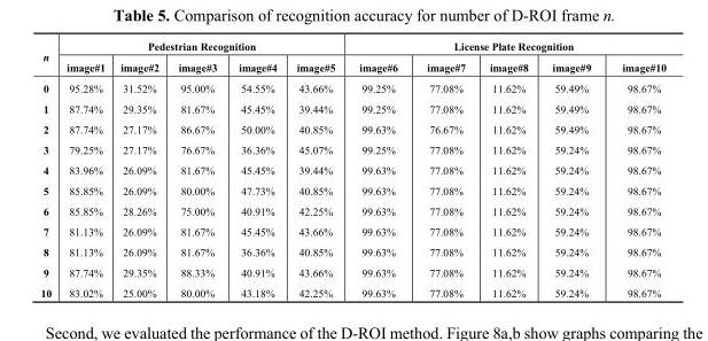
<table><thead><tr><td rowspan="2">n</td><td colspan="5">Pedestrian Recognition</td><td colspan="5">License Plate Recognition</td></tr><tr><td>image#1</td><td>image#2</td><td>image#3</td><td>image#4</td><td>image#5</td><td>image#6</td><td>image#7</td><td>image#8</td><td>image#9</td><td>image#10</td></tr></thead><tbody><tr><td>0</td><td>95.28%</td><td>31.52%</td><td>95.00%</td><td>54.55%</td><td>43.66%</td><td>99.25%</td><td>77.08%</td><td>11.62%</td><td>59.49%</td><td>98.67%</td></tr><tr><td>1</td><td>87.74%</td><td>29.35%</td><td>81.67%</td><td>45.45%</td><td>39.44%</td><td>99.25%</td><td>77.08%</td><td>11.62%</td><td>59.49%</td><td>98.67%</td></tr><tr><td>2</td><td>87.74%</td><td>27.17%</td><td>86.67%</td><td>50.00%</td><td>40.85%</td><td>99.63%</td><td>76.67%</td><td>11.62%</td><td>59.49%</td><td>98.67%</td></tr><tr><td>3</td><td>79.25%</td><td>27.17%</td><td>76.67%</td><td>36.36%</td><td>45.07%</td><td>99.25%</td><td>77.08%</td><td>11.62%</td><td>59.24%</td><td>98.67%</td></tr><tr><td>4</td><td>83.96%</td><td>26.09%</td><td>81.67%</td><td>45.45%</td><td>39.44%</td><td>99.63%</td><td>77.08%</td><td>11.62%</td><td>59.24%</td><td>98.67%</td></tr><tr><td>5</td><td>85.85%</td><td>26.09%</td><td>80.00%</td><td>47.73%</td><td>40.85%</td><td>99.63%</td><td>77.08%</td><td>11.62%</td><td>59.24%</td><td>98.67%</td></tr><tr><td>6</td><td>85.85%</td><td>28.26%</td><td>75.00%</td><td>40.91%</td><td>42.25%</td><td>99.63%</td><td>77.08%</td><td>11.62%</td><td>59.24%</td><td>98.67%</td></tr><tr><td>7</td><td>81.13%</td><td>26.09%</td><td>81.67%</td><td>45.45%</td><td>43.66%</td><td>99.63%</td><td>77.08%</td><td>11.62%</td><td>59.24%</td><td>98.67%</td></tr><tr><td>8</td><td>81.13%</td><td>26.09%</td><td>81.67%</td><td>36.36%</td><td>40.85%</td><td>99.63%</td><td>77.08%</td><td>11.62%</td><td>59.24%</td><td>98.67%</td></tr><tr><td>9</td><td>87.74%</td><td>29.35%</td><td>88.33%</td><td>40.91%</td><td>43.66%</td><td>99.63%</td><td>77.08%</td><td>11.62%</td><td>59.24%</td><td>98.67%</td></tr><tr><td>10</td><td>83.02%</td><td>25.00%</td><td>80.00%</td><td>43.18%</td><td>42.25%</td><td>99.63%</td><td>77.08%</td><td>11.62%</td><td>59.24%</td><td>98.67%</td></tr></tbody></table>